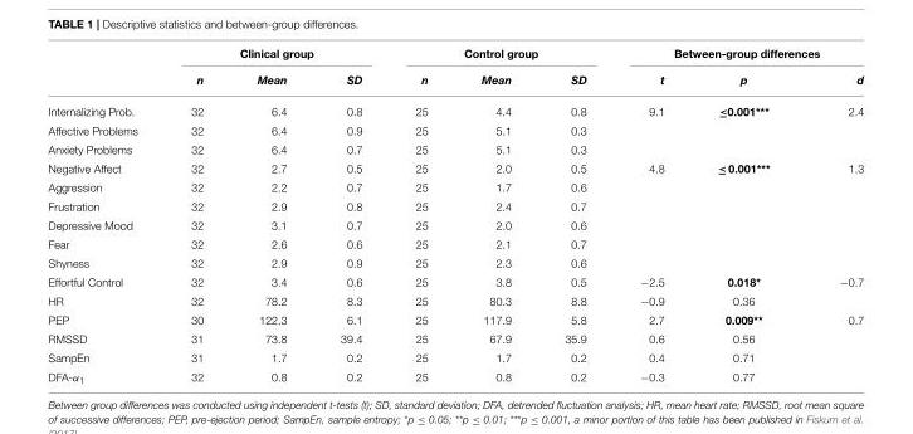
<table><thead><tr><td rowspan="2"></td><td colspan="3">Clinical group</td><td colspan="3">Control group</td><td colspan="3">Between-group differences</td></tr><tr><td>n</td><td>Mean</td><td>SD</td><td>n</td><td>Mean</td><td>SD</td><td>t</td><td>p</td><td>d</td></tr></thead><tbody><tr><td>Internalizing Prob.</td><td>32</td><td>6.4</td><td>0.8</td><td>25</td><td>4.4</td><td>0.8</td><td>9.1</td><td>≤0.001***</td><td>2.4</td></tr><tr><td>Affective Problems</td><td>32</td><td>6.4</td><td>0.9</td><td>25</td><td>5.1</td><td>0.3</td><td></td><td></td><td></td></tr><tr><td>Anxiety Problems</td><td>32</td><td>6.4</td><td>0.7</td><td>25</td><td>5.1</td><td>0.3</td><td></td><td></td><td></td></tr><tr><td>Negative Affect</td><td>32</td><td>2.7</td><td>0.5</td><td>25</td><td>2.0</td><td>0.5</td><td>4.8</td><td>≤ 0.001***</td><td>1.3</td></tr><tr><td>Aggression</td><td>32</td><td>2.2</td><td>0.7</td><td>25</td><td>1.7</td><td>0.6</td><td></td><td></td><td></td></tr><tr><td>Frustration</td><td>32</td><td>2.9</td><td>0.8</td><td>25</td><td>2.4</td><td>0.7</td><td></td><td></td><td></td></tr><tr><td>Depressive Mood</td><td>32</td><td>3.1</td><td>0.7</td><td>25</td><td>2.0</td><td>0.6</td><td></td><td></td><td></td></tr><tr><td>Fear</td><td>32</td><td>2.6</td><td>0.6</td><td>25</td><td>2.1</td><td>0.7</td><td></td><td></td><td></td></tr><tr><td>Shyness</td><td>32</td><td>2.9</td><td>0.9</td><td>25</td><td>2.3</td><td>0.6</td><td></td><td></td><td></td></tr><tr><td>Effortful Control</td><td>32</td><td>3.4</td><td>0.6</td><td>25</td><td>3.8</td><td>0.5</td><td>−2.5</td><td>0.018*</td><td>−0.7</td></tr><tr><td>HR</td><td>32</td><td>78.2</td><td>8.3</td><td>25</td><td>80.3</td><td>8.8</td><td>−0.9</td><td>0.36</td><td></td></tr><tr><td>PEP</td><td>30</td><td>122.3</td><td>6.1</td><td>25</td><td>117.9</td><td>5.8</td><td>2.7</td><td>0.009**</td><td>0.7</td></tr><tr><td>RMSSD</td><td>31</td><td>73.8</td><td>39.4</td><td>25</td><td>67.9</td><td>35.9</td><td>0.6</td><td>0.56</td><td></td></tr><tr><td>SampEn</td><td>31</td><td>1.7</td><td>0.2</td><td>25</td><td>1.7</td><td>0.2</td><td>0.4</td><td>0.71</td><td></td></tr><tr><td>DFA-α<sub>1</sub></td><td>32</td><td>0.8</td><td>0.2</td><td>25</td><td>0.8</td><td>0.2</td><td>−0.3</td><td>0.77</td><td></td></tr></tbody></table>